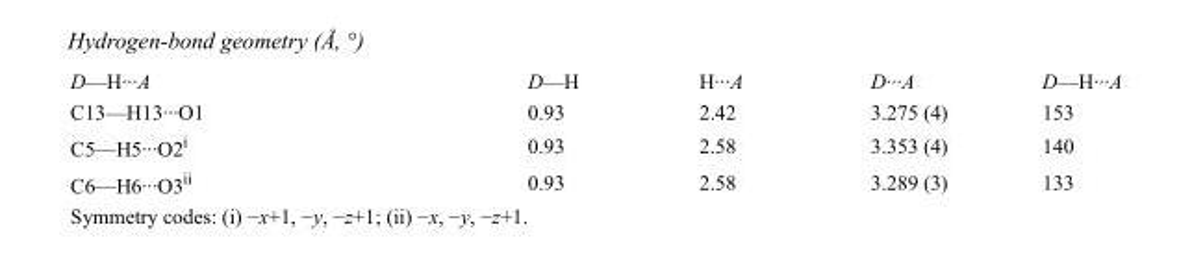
<table><tbody><tr><td>D—H···A</td><td>D—H</td><td>H···A</td><td>D···A</td><td>D—H···A</td></tr><tr><td>C13—H13···O1</td><td>0.93</td><td>2.42</td><td>3.275 (4)</td><td>153</td></tr><tr><td>C5—H5···O2<sup>i</sup></td><td>0.93</td><td>2.58</td><td>3.353 (4)</td><td>140</td></tr><tr><td>C6—H6···O3<sup>ii</sup></td><td>0.93</td><td>2.58</td><td>3.289 (3)</td><td>133</td></tr></tbody></table>